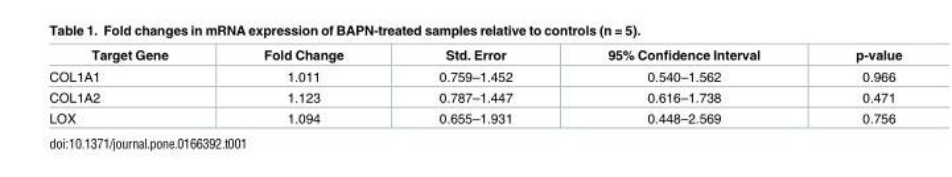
<table><thead><tr><td>Target Gene</td><td>Fold Change</td><td>Std. Error</td><td>95% Confidence Interval</td><td>p-value</td></tr></thead><tbody><tr><td>COL1A1</td><td>1.011</td><td>0.759–1.452</td><td>0.540–1.562</td><td>0.966</td></tr><tr><td>COL1A2</td><td>1.123</td><td>0.787–1.447</td><td>0.616–1.738</td><td>0.471</td></tr><tr><td>LOX</td><td>1.094</td><td>0.655–1.931</td><td>0.448–2.569</td><td>0.756</td></tr></tbody></table>